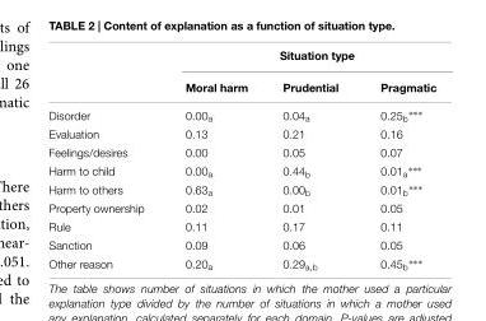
<table><thead><tr><td rowspan="2"></td><td colspan="3">Situation type</td></tr><tr><td>Moral harm</td><td>Prudential</td><td>Pragmatic</td></tr></thead><tbody><tr><td>Disorder</td><td>0.00<sub>a</sub></td><td>0.04<sub>a</sub></td><td>0.25b∗∗∗</td></tr><tr><td>Evaluation</td><td>0.13</td><td>0.21</td><td>0.16</td></tr><tr><td>Feelings/desires</td><td>0.00</td><td>0.05</td><td>0.07</td></tr><tr><td>Harm to child</td><td>0.00<sub>a</sub></td><td>0.44<sub>b</sub></td><td>0.01a∗∗∗</td></tr><tr><td>Harm to others</td><td>0.63<sub>a</sub></td><td>0.00<sub>b</sub></td><td>0.01b∗∗∗</td></tr><tr><td>Property ownership</td><td>0.02</td><td>0.01</td><td>0.05</td></tr><tr><td>Rule</td><td>0.11</td><td>0.17</td><td>0.11</td></tr><tr><td>Sanction</td><td>0.09</td><td>0.06</td><td>0.05</td></tr><tr><td>Other reason</td><td>0.20<sub>a</sub></td><td>0.29<sub>a,b</sub></td><td>0.45b∗∗∗</td></tr></tbody></table>